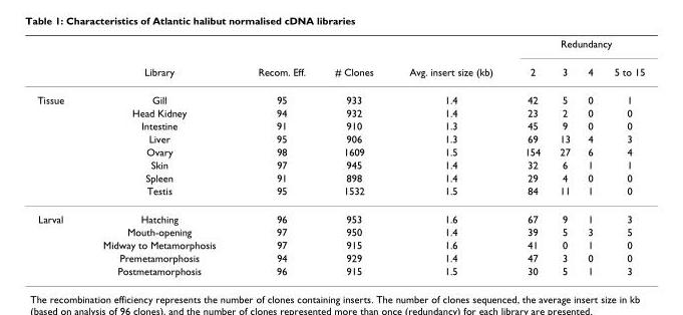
<table><thead><tr><td rowspan="2"></td><td rowspan="2">Library</td><td rowspan="2">Recom. Eff.</td><td rowspan="2"># Clones</td><td rowspan="2">Avg. insert size (kb)</td><td colspan="4">Redundancy</td></tr><tr><td>2</td><td>3</td><td>4</td><td>5 to 15</td></tr></thead><tbody><tr><td rowspan="8">Tissue</td><td>Gill</td><td>95</td><td>933</td><td>1.4</td><td>42</td><td>5</td><td>0</td><td>1</td></tr><tr><td>Head Kidney</td><td>94</td><td>932</td><td>1.4</td><td>23</td><td>2</td><td>0</td><td>0</td></tr><tr><td>Intestine</td><td>91</td><td>910</td><td>1.3</td><td>45</td><td>9</td><td>0</td><td>0</td></tr><tr><td>Liver</td><td>95</td><td>906</td><td>1.3</td><td>69</td><td>13</td><td>4</td><td>3</td></tr><tr><td>Ovary</td><td>98</td><td>1609</td><td>1.5</td><td>154</td><td>27</td><td>6</td><td>4</td></tr><tr><td>Skin</td><td>97</td><td>945</td><td>1.4</td><td>32</td><td>6</td><td>1</td><td>1</td></tr><tr><td>Spleen</td><td>91</td><td>898</td><td>1.4</td><td>29</td><td>4</td><td>0</td><td>0</td></tr><tr><td>Testis</td><td>95</td><td>1532</td><td>1.5</td><td>84</td><td>11</td><td>1</td><td>0</td></tr><tr><td rowspan="5">Larval</td><td>Hatching</td><td>96</td><td>953</td><td>1.6</td><td>67</td><td>9</td><td>1</td><td>3</td></tr><tr><td>Mouth-opening</td><td>97</td><td>950</td><td>1.4</td><td>39</td><td>5</td><td>3</td><td>5</td></tr><tr><td>Midway to Metamorphosis</td><td>97</td><td>915</td><td>1.6</td><td>41</td><td>0</td><td>1</td><td>0</td></tr><tr><td>Premetamorphosis</td><td>94</td><td>929</td><td>1.4</td><td>47</td><td>3</td><td>0</td><td>0</td></tr><tr><td>Postmetamorphosis</td><td>96</td><td>915</td><td>1.5</td><td>30</td><td>5</td><td>1</td><td>3</td></tr></tbody></table>